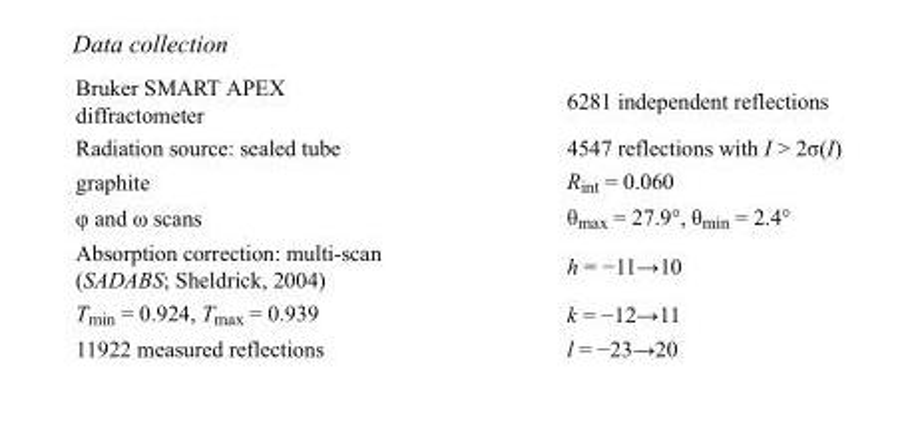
<table><tbody><tr><td>Bruker SMART APEX diffractometer</td><td>6281 independent reflections</td></tr><tr><td>Radiation source: sealed tube</td><td>4547 reflections with I &gt; 2σ(I)</td></tr><tr><td>graphite</td><td>R<sub>int</sub> = 0.060</td></tr><tr><td>φ and ω scans</td><td>θ<sub>max</sub> = 27.9°, θ<sub>min</sub> = 2.4°</td></tr><tr><td>Absorption correction: multi-scan (SADABS; Sheldrick, 2004)</td><td>h = −11→10</td></tr><tr><td>T<sub>min</sub> = 0.924, T<sub>max</sub> = 0.939</td><td>k = −12→11</td></tr><tr><td>11922 measured reflections</td><td>l = −23→20</td></tr></tbody></table>